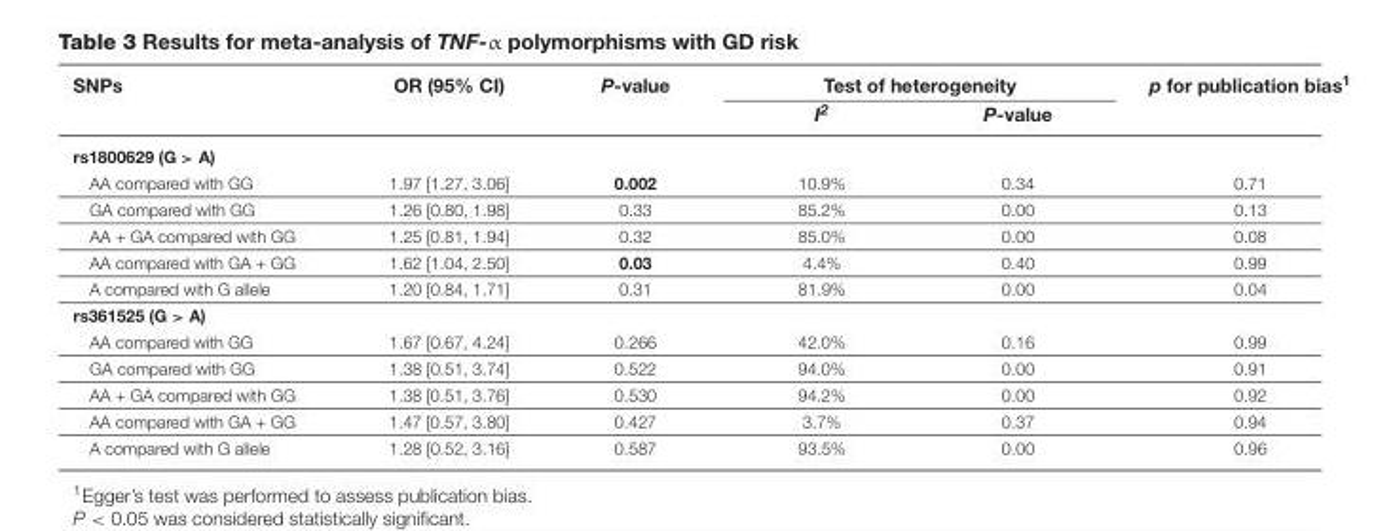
<table><thead><tr><td rowspan="2">SNPs</td><td rowspan="2">OR (95% CI)</td><td rowspan="2">P-value</td><td colspan="2">Test of heterogeneity</td><td rowspan="2">p for publication bias<sup>1</sup></td></tr><tr><td>I<sup>2</sup></td><td>P-value</td></tr></thead><tbody><tr><td colspan="6">rs1800629 (G &gt; A)</td></tr><tr><td>AA compared with GG</td><td>1.97 [1.27, 3.06]</td><td>0.002</td><td>10.9%</td><td>0.34</td><td>0.71</td></tr><tr><td>GA compared with GG</td><td>1.26 [0.80, 1.98]</td><td>0.33</td><td>85.2%</td><td>0.00</td><td>0.13</td></tr><tr><td>AA + GA compared with GG</td><td>1.25 [0.81, 1.94]</td><td>0.32</td><td>85.0%</td><td>0.00</td><td>0.08</td></tr><tr><td>AA compared with GA + GG</td><td>1.62 [1.04, 2.50]</td><td>0.03</td><td>4.4%</td><td>0.40</td><td>0.99</td></tr><tr><td>A compared with G allele</td><td>1.20 [0.84, 1.71]</td><td>0.31</td><td>81.9%</td><td>0.00</td><td>0.04</td></tr><tr><td colspan="6">rs361525 (G &gt; A)</td></tr><tr><td>AA compared with GG</td><td>1.67 [0.67, 4.24]</td><td>0.266</td><td>42.0%</td><td>0.16</td><td>0.99</td></tr><tr><td>GA compared with GG</td><td>1.38 [0.51, 3.74]</td><td>0.522</td><td>94.0%</td><td>0.00</td><td>0.91</td></tr><tr><td>AA + GA compared with GG</td><td>1.38 [0.51, 3.76]</td><td>0.530</td><td>94.2%</td><td>0.00</td><td>0.92</td></tr><tr><td>AA compared with GA + GG</td><td>1.47 [0.57, 3.80]</td><td>0.427</td><td>3.7%</td><td>0.37</td><td>0.94</td></tr><tr><td>A compared with G allele</td><td>1.28 [0.52, 3.16]</td><td>0.587</td><td>93.5%</td><td>0.00</td><td>0.96</td></tr></tbody></table>